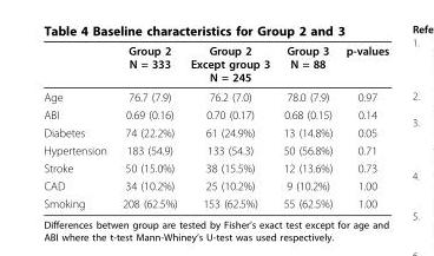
<table><thead><tr><td></td><td>Group 2 N = 333</td><td>Group 2 Except group 3 N = 245</td><td>Group 3 N = 88</td><td>p-values</td></tr></thead><tbody><tr><td>Age</td><td>76.7 (7.9)</td><td>76.2 (7.0)</td><td>78.0 (7.9)</td><td>0.97</td></tr><tr><td>ABI</td><td>0.69 (0.16)</td><td>0.70 (0.17)</td><td>0.68 (0.15)</td><td>0.14</td></tr><tr><td>Diabetes</td><td>74 (22.2%)</td><td>61 (24.9%)</td><td>13 (14.8%)</td><td>0.05</td></tr><tr><td>Hypertension</td><td>183 (54.9)</td><td>133 (54.3)</td><td>50 (56.8%)</td><td>0.71</td></tr><tr><td>Stroke</td><td>50 (15.0%)</td><td>38 (15.5%)</td><td>12 (13.6%)</td><td>0.73</td></tr><tr><td>CAD</td><td>34 (10.2%)</td><td>25 (10.2%)</td><td>9 (10.2%)</td><td>1.00</td></tr><tr><td>Smoking</td><td>208 (62.5%)</td><td>153 (62.5%)</td><td>55 (62.5%)</td><td>1.00</td></tr></tbody></table>